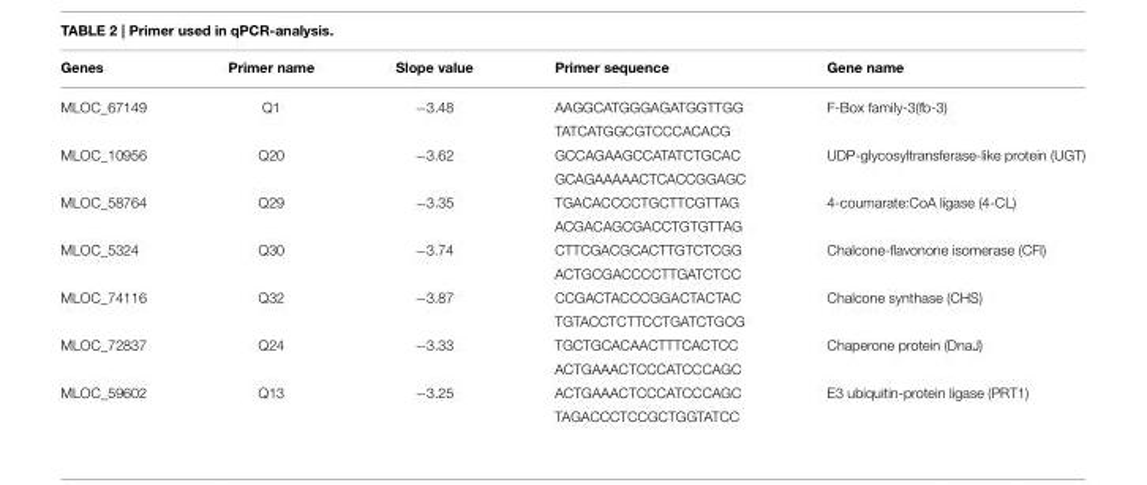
<table><thead><tr><td>Genes</td><td>Primer name</td><td>Slope value</td><td>Primer sequence</td><td>Gene name</td></tr></thead><tbody><tr><td rowspan="2">MLOC_67149</td><td>Q1</td><td>−3.48</td><td>AAGGCATGGGAGATGGTTGG</td><td>F-Box family-3(fb-3)</td></tr><tr><td></td><td></td><td>TATCATGGCGTCCCACACG</td><td></td></tr><tr><td rowspan="2">MLOC_10956</td><td>Q20</td><td>−3.62</td><td>GCCAGAAGCCATATCTGCAC</td><td>UDP-glycosyltransferase-like protein (UGT)</td></tr><tr><td></td><td></td><td>GCAGAAAAACTCACCGGAGC</td><td></td></tr><tr><td rowspan="2">MLOC_58764</td><td>Q29</td><td>−3.35</td><td>TGACACCCCTGCTTCGTTAG</td><td>4-coumarate:CoA ligase (4-CL)</td></tr><tr><td></td><td></td><td>ACGACAGCGACCTGTGTTAG</td><td></td></tr><tr><td rowspan="2">MLOC_5324</td><td>Q30</td><td>−3.74</td><td>CTTCGACGCACTTGTCTCGG</td><td>Chalcone-flavonone isomerase (CFI)</td></tr><tr><td></td><td></td><td>ACTGCGACCCCTTGATCTCC</td><td></td></tr><tr><td rowspan="2">MLOC_74116</td><td>Q32</td><td>−3.87</td><td>CCGACTACCCGGACTACTAC</td><td>Chalcone synthase (CHS)</td></tr><tr><td></td><td></td><td>TGTACCTCTTCCTGATCTGCG</td><td></td></tr><tr><td rowspan="2">MLOC_72837</td><td>Q24</td><td>−3.33</td><td>TGCTGCACAACTTTCACTCC</td><td>Chaperone protein (DnaJ)</td></tr><tr><td></td><td></td><td>ACTGAAACTCCCATCCCAGC</td><td></td></tr><tr><td rowspan="2">MLOC_59602</td><td>Q13</td><td>−3.25</td><td>ACTGAAACTCCCATCCCAGC</td><td>E3 ubiquitin-protein ligase (PRT1)</td></tr><tr><td></td><td></td><td>TAGACCCTCCGCTGGTATCC</td><td></td></tr></tbody></table>